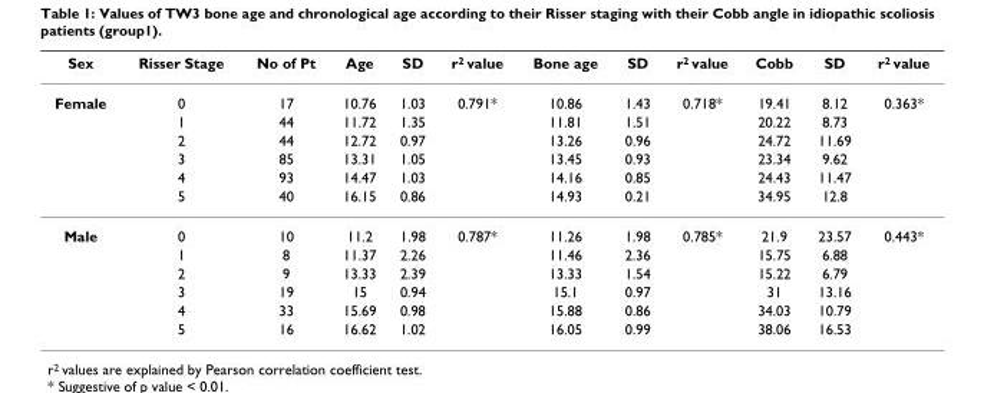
<table><thead><tr><td>Sex</td><td>Risser Stage</td><td>No of Pt</td><td>Age</td><td>SD</td><td>r<sup>2</sup> value</td><td>Bone age</td><td>SD</td><td>r<sup>2</sup> value</td><td>Cobb</td><td>SD</td><td>r<sup>2</sup> value</td></tr></thead><tbody><tr><td rowspan="6">Female</td><td>0</td><td>17</td><td>10.76</td><td>1.03</td><td>0.791*</td><td>10.86</td><td>1.43</td><td>0.718*</td><td>19.41</td><td>8.12</td><td>0.363*</td></tr><tr><td>1</td><td>44</td><td>11.72</td><td>1.35</td><td></td><td>11.81</td><td>1.51</td><td></td><td>20.22</td><td>8.73</td><td></td></tr><tr><td>2</td><td>44</td><td>12.72</td><td>0.97</td><td></td><td>13.26</td><td>0.96</td><td></td><td>24.72</td><td>11.69</td><td></td></tr><tr><td>3</td><td>85</td><td>13.31</td><td>1.05</td><td></td><td>13.45</td><td>0.93</td><td></td><td>23.34</td><td>9.62</td><td></td></tr><tr><td>4</td><td>93</td><td>14.47</td><td>1.03</td><td></td><td>14.16</td><td>0.85</td><td></td><td>24.43</td><td>11.47</td><td></td></tr><tr><td>5</td><td>40</td><td>16.15</td><td>0.86</td><td></td><td>14.93</td><td>0.21</td><td></td><td>34.95</td><td>12.8</td><td></td></tr><tr><td rowspan="6">Male</td><td>0</td><td>10</td><td>11.2</td><td>1.98</td><td>0.787*</td><td>11.26</td><td>1.98</td><td>0.785*</td><td>21.9</td><td>23.57</td><td>0.443*</td></tr><tr><td>1</td><td>8</td><td>11.37</td><td>2.26</td><td></td><td>11.46</td><td>2.36</td><td></td><td>15.75</td><td>6.88</td><td></td></tr><tr><td>2</td><td>9</td><td>13.33</td><td>2.39</td><td></td><td>13.33</td><td>1.54</td><td></td><td>15.22</td><td>6.79</td><td></td></tr><tr><td>3</td><td>19</td><td>15</td><td>0.94</td><td></td><td>15.1</td><td>0.97</td><td></td><td>31</td><td>13.16</td><td></td></tr><tr><td>4</td><td>33</td><td>15.69</td><td>0.98</td><td></td><td>15.88</td><td>0.86</td><td></td><td>34.03</td><td>10.79</td><td></td></tr><tr><td>5</td><td>16</td><td>16.62</td><td>1.02</td><td></td><td>16.05</td><td>0.99</td><td></td><td>38.06</td><td>16.53</td><td></td></tr></tbody></table>